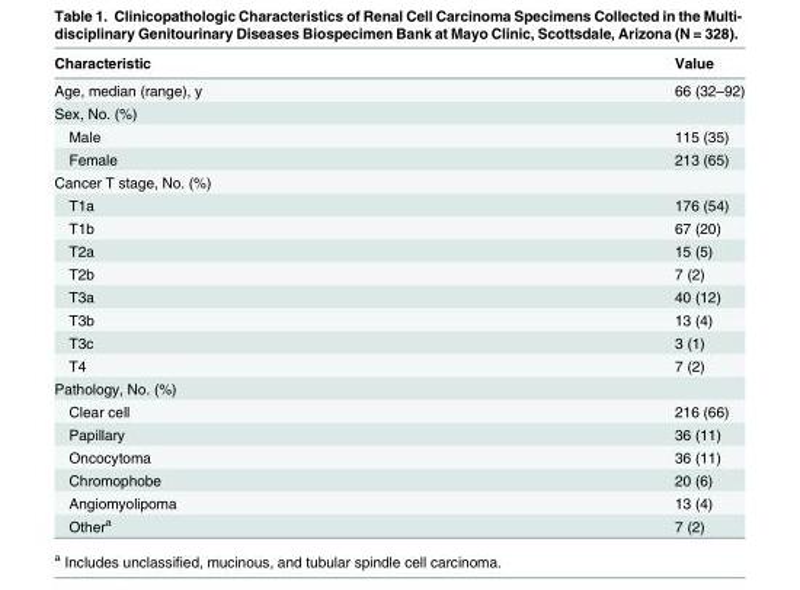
<table><thead><tr><td>Characteristic</td><td>Value</td></tr></thead><tbody><tr><td>Age, median (range), y</td><td>66 (32–92)</td></tr><tr><td colspan="2">Sex, No. (%)</td></tr><tr><td>Male</td><td>115 (35)</td></tr><tr><td>Female</td><td>213 (65)</td></tr><tr><td colspan="2">Cancer T stage, No. (%)</td></tr><tr><td>T1a</td><td>176 (54)</td></tr><tr><td>T1b</td><td>67 (20)</td></tr><tr><td>T2a</td><td>15 (5)</td></tr><tr><td>T2b</td><td>7 (2)</td></tr><tr><td>T3a</td><td>40 (12)</td></tr><tr><td>T3b</td><td>13 (4)</td></tr><tr><td>T3c</td><td>3 (1)</td></tr><tr><td>T4</td><td>7 (2)</td></tr><tr><td colspan="2">Pathology, No. (%)</td></tr><tr><td>Clear cell</td><td>216 (66)</td></tr><tr><td>Papillary</td><td>36 (11)</td></tr><tr><td>Oncocytoma</td><td>36 (11)</td></tr><tr><td>Chromophobe</td><td>20 (6)</td></tr><tr><td>Angiomyolipoma</td><td>13 (4)</td></tr><tr><td>Other<sup>a</sup></td><td>7 (2)</td></tr></tbody></table>